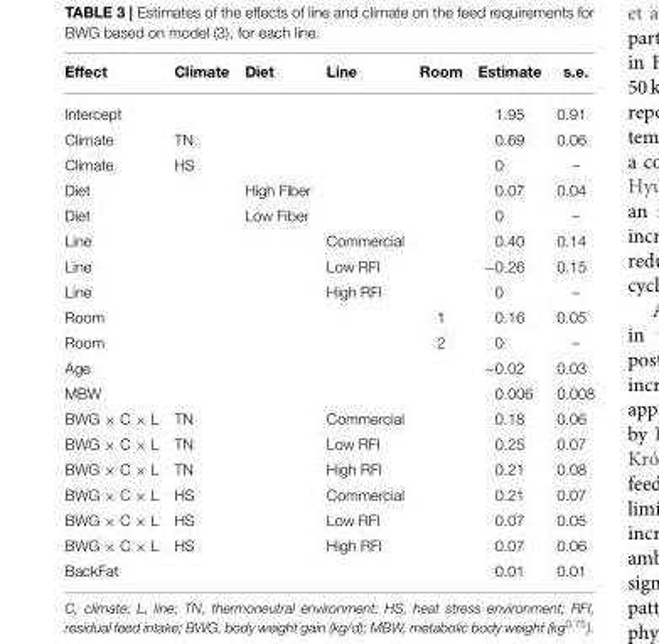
<table><thead><tr><td>Effect</td><td>Climate</td><td>Diet</td><td>Line</td><td>Room</td><td>Estimate</td><td>s.e.</td></tr></thead><tbody><tr><td>Intercept</td><td></td><td></td><td></td><td></td><td>1.95</td><td>0.91</td></tr><tr><td>Climate</td><td>TN</td><td></td><td></td><td></td><td>0.69</td><td>0.06</td></tr><tr><td>Climate</td><td>HS</td><td></td><td></td><td></td><td>0</td><td>–</td></tr><tr><td>Diet</td><td></td><td>High Fiber</td><td></td><td></td><td>0.07</td><td>0.04</td></tr><tr><td>Diet</td><td></td><td>Low Fiber</td><td></td><td></td><td>0</td><td>–</td></tr><tr><td>Line</td><td></td><td></td><td>Commercial</td><td></td><td>0.40</td><td>0.14</td></tr><tr><td>Line</td><td></td><td></td><td>Low RFI</td><td></td><td>−0.26</td><td>0.15</td></tr><tr><td>Line</td><td></td><td></td><td>High RFI</td><td></td><td>0</td><td>–</td></tr><tr><td>Room</td><td></td><td></td><td></td><td>1</td><td>0.16</td><td>0.05</td></tr><tr><td>Room</td><td></td><td></td><td></td><td>2</td><td>0</td><td>–</td></tr><tr><td>Age</td><td></td><td></td><td></td><td></td><td>−0.02</td><td>0.03</td></tr><tr><td>MBW</td><td></td><td></td><td></td><td></td><td>0.006</td><td>0.008</td></tr><tr><td>BWG × C × L</td><td>TN</td><td></td><td>Commercial</td><td></td><td>0.18</td><td>0.06</td></tr><tr><td>BWG × C × L</td><td>TN</td><td></td><td>Low RFI</td><td></td><td>0.25</td><td>0.07</td></tr><tr><td>BWG × C × L</td><td>TN</td><td></td><td>High RFI</td><td></td><td>0.21</td><td>0.08</td></tr><tr><td>BWG × C × L</td><td>HS</td><td></td><td>Commercial</td><td></td><td>0.21</td><td>0.07</td></tr><tr><td>BWG × C × L</td><td>HS</td><td></td><td>Low RFI</td><td></td><td>0.07</td><td>0.05</td></tr><tr><td>BWG × C × L</td><td>HS</td><td></td><td>High RFI</td><td></td><td>0.07</td><td>0.06</td></tr><tr><td>BackFat</td><td></td><td></td><td></td><td></td><td>0.01</td><td>0.01</td></tr></tbody></table>